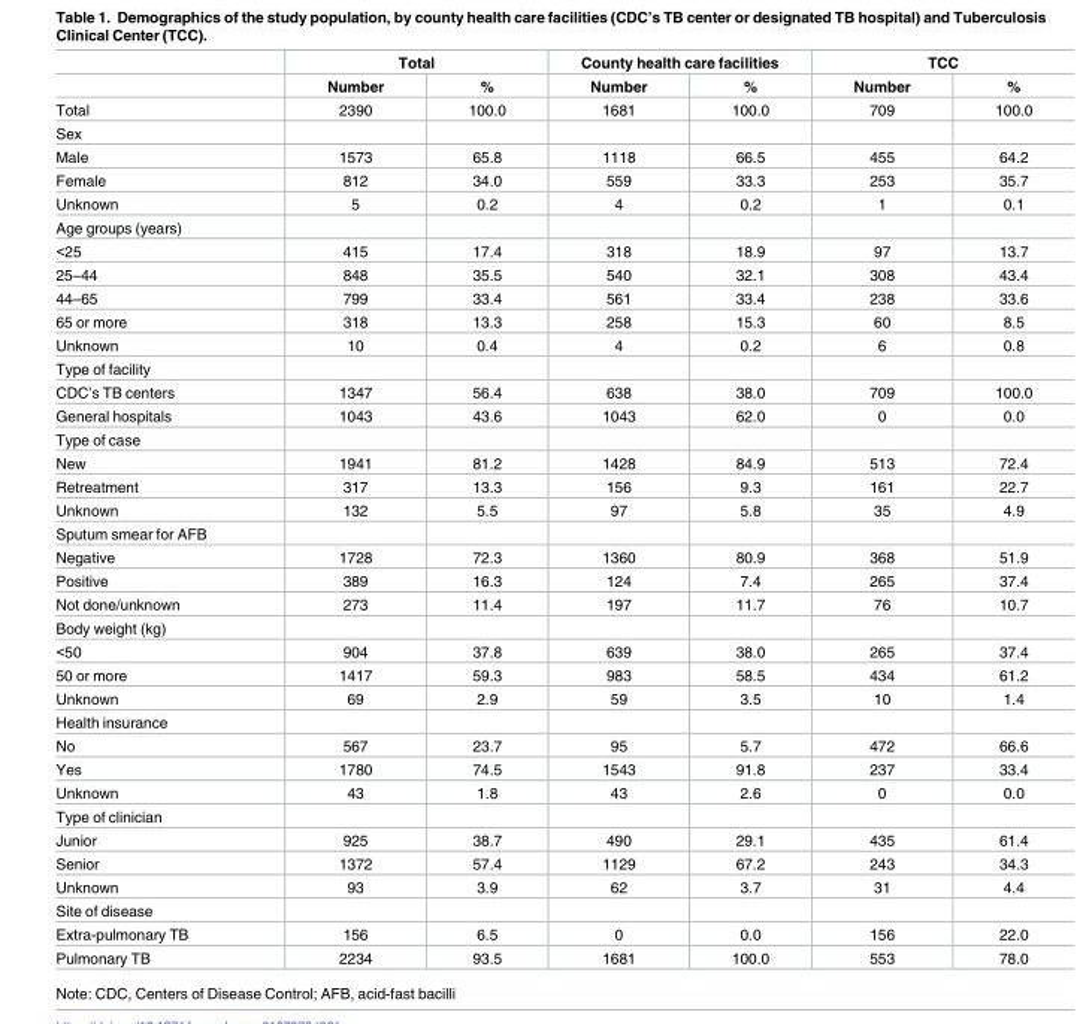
<table><thead><tr><td rowspan="2"></td><td colspan="2">Total</td><td colspan="2">County health care facilities</td><td colspan="2">TCC</td></tr><tr><td>Number</td><td>%</td><td>Number</td><td>%</td><td>Number</td><td>%</td></tr></thead><tbody><tr><td>Total</td><td>2390</td><td>100.0</td><td>1681</td><td>100.0</td><td>709</td><td>100.0</td></tr><tr><td colspan="7">Sex</td></tr><tr><td>Male</td><td>1573</td><td>65.8</td><td>1118</td><td>66.5</td><td>455</td><td>64.2</td></tr><tr><td>Female</td><td>812</td><td>34.0</td><td>559</td><td>33.3</td><td>253</td><td>35.7</td></tr><tr><td>Unknown</td><td>5</td><td>0.2</td><td>4</td><td>0.2</td><td>1</td><td>0.1</td></tr><tr><td colspan="7">Age groups (years)</td></tr><tr><td>&lt;25</td><td>415</td><td>17.4</td><td>318</td><td>18.9</td><td>97</td><td>13.7</td></tr><tr><td>25–44</td><td>848</td><td>35.5</td><td>540</td><td>32.1</td><td>308</td><td>43.4</td></tr><tr><td>44–65</td><td>799</td><td>33.4</td><td>561</td><td>33.4</td><td>238</td><td>33.6</td></tr><tr><td>65 or more</td><td>318</td><td>13.3</td><td>258</td><td>15.3</td><td>60</td><td>8.5</td></tr><tr><td>Unknown</td><td>10</td><td>0.4</td><td>4</td><td>0.2</td><td>6</td><td>0.8</td></tr><tr><td colspan="7">Type of facility</td></tr><tr><td>CDC’s TB centers</td><td>1347</td><td>56.4</td><td>638</td><td>38.0</td><td>709</td><td>100.0</td></tr><tr><td>General hospitals</td><td>1043</td><td>43.6</td><td>1043</td><td>62.0</td><td>0</td><td>0.0</td></tr><tr><td colspan="7">Type of case</td></tr><tr><td>New</td><td>1941</td><td>81.2</td><td>1428</td><td>84.9</td><td>513</td><td>72.4</td></tr><tr><td>Retreatment</td><td>317</td><td>13.3</td><td>156</td><td>9.3</td><td>161</td><td>22.7</td></tr><tr><td>Unknown</td><td>132</td><td>5.5</td><td>97</td><td>5.8</td><td>35</td><td>4.9</td></tr><tr><td colspan="7">Sputum smear for AFB</td></tr><tr><td>Negative</td><td>1728</td><td>72.3</td><td>1360</td><td>80.9</td><td>368</td><td>51.9</td></tr><tr><td>Positive</td><td>389</td><td>16.3</td><td>124</td><td>7.4</td><td>265</td><td>37.4</td></tr><tr><td>Not done/unknown</td><td>273</td><td>11.4</td><td>197</td><td>11.7</td><td>76</td><td>10.7</td></tr><tr><td colspan="7">Body weight (kg)</td></tr><tr><td>&lt;50</td><td>904</td><td>37.8</td><td>639</td><td>38.0</td><td>265</td><td>37.4</td></tr><tr><td>50 or more</td><td>1417</td><td>59.3</td><td>983</td><td>58.5</td><td>434</td><td>61.2</td></tr><tr><td>Unknown</td><td>69</td><td>2.9</td><td>59</td><td>3.5</td><td>10</td><td>1.4</td></tr><tr><td colspan="7">Health insurance</td></tr><tr><td>No</td><td>567</td><td>23.7</td><td>95</td><td>5.7</td><td>472</td><td>66.6</td></tr><tr><td>Yes</td><td>1780</td><td>74.5</td><td>1543</td><td>91.8</td><td>237</td><td>33.4</td></tr><tr><td>Unknown</td><td>43</td><td>1.8</td><td>43</td><td>2.6</td><td>0</td><td>0.0</td></tr><tr><td colspan="7">Type of clinician</td></tr><tr><td>Junior</td><td>925</td><td>38.7</td><td>490</td><td>29.1</td><td>435</td><td>61.4</td></tr><tr><td>Senior</td><td>1372</td><td>57.4</td><td>1129</td><td>67.2</td><td>243</td><td>34.3</td></tr><tr><td>Unknown</td><td>93</td><td>3.9</td><td>62</td><td>3.7</td><td>31</td><td>4.4</td></tr><tr><td colspan="7">Site of disease</td></tr><tr><td>Extra-pulmonary TB</td><td>156</td><td>6.5</td><td>0</td><td>0.0</td><td>156</td><td>22.0</td></tr><tr><td>Pulmonary TB</td><td>2234</td><td>93.5</td><td>1681</td><td>100.0</td><td>553</td><td>78.0</td></tr></tbody></table>